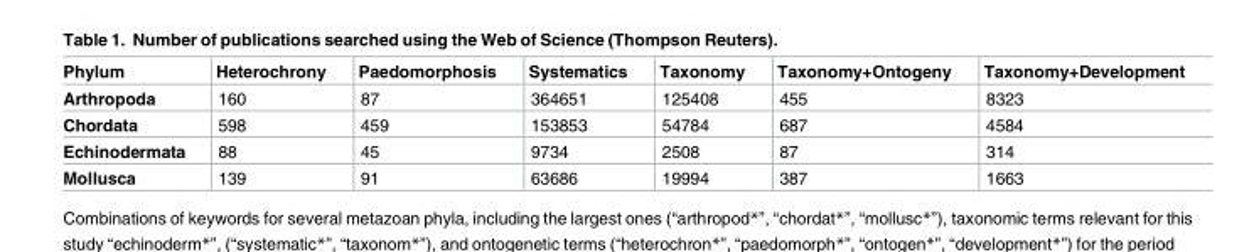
<table><thead><tr><td>Phylum</td><td>Heterochrony</td><td>Paedomorphosis</td><td>Systematics</td><td>Taxonomy</td><td>Taxonomy+Ontogeny</td><td>Taxonomy+Development</td></tr></thead><tbody><tr><td>Arthropoda</td><td>160</td><td>87</td><td>364651</td><td>125408</td><td>455</td><td>8323</td></tr><tr><td>Chordata</td><td>598</td><td>459</td><td>153853</td><td>54784</td><td>687</td><td>4584</td></tr><tr><td>Echinodermata</td><td>88</td><td>45</td><td>9734</td><td>2508</td><td>87</td><td>314</td></tr><tr><td>Mollusca</td><td>139</td><td>91</td><td>63686</td><td>19994</td><td>387</td><td>1663</td></tr></tbody></table>